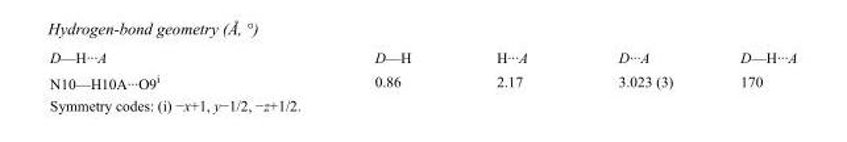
<table><tbody><tr><td>D—H···A</td><td>D—H</td><td>H···A</td><td>D···A</td><td>D—H···A</td></tr><tr><td>N10—H10A···O9<sup>i</sup></td><td>0.86</td><td>2.17</td><td>3.023 (3)</td><td>170</td></tr></tbody></table>